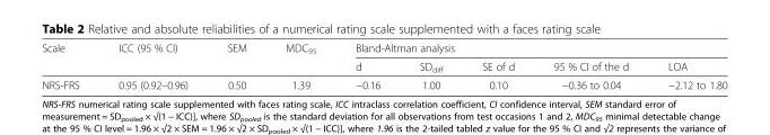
<table><thead><tr><td rowspan="2">Scale</td><td rowspan="2">ICC (95 % CI)</td><td rowspan="2">SEM</td><td rowspan="2">MDC<sub>95</sub></td><td colspan="5">Bland-Altman analysis</td></tr><tr><td>d</td><td>SD<sub>diff</sub></td><td>SE of d</td><td>95 % CI of the d</td><td>LOA</td></tr></thead><tbody><tr><td>NRS-FRS</td><td>0.95 (0.92–0.96)</td><td>0.50</td><td>1.39</td><td>−0.16</td><td>1.00</td><td>0.10</td><td>−0.36 to 0.04</td><td>−2.12 to 1.80</td></tr></tbody></table>